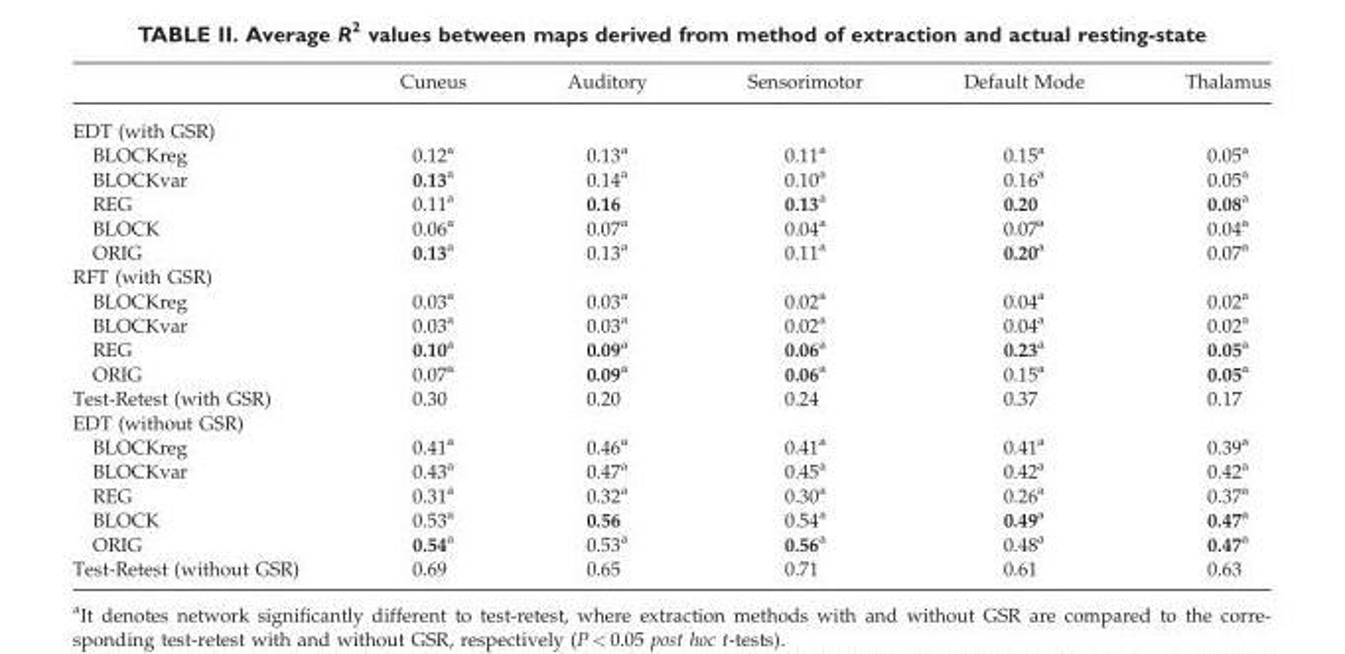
<table><thead><tr><td></td><td>Cuneus</td><td>Auditory</td><td>Sensorimotor</td><td>Default Mode</td><td>Thalamus</td></tr></thead><tbody><tr><td colspan="6">EDT (with GSR)</td></tr><tr><td>BLOCKreg</td><td>0.12<sup>a</sup></td><td>0.13<sup>a</sup></td><td>0.11<sup>a</sup></td><td>0.15<sup>a</sup></td><td>0.05<sup>a</sup></td></tr><tr><td>BLOCKvar</td><td>0.13a</td><td>0.14<sup>a</sup></td><td>0.10<sup>a</sup></td><td>0.16<sup>a</sup></td><td>0.05<sup>a</sup></td></tr><tr><td>REG</td><td>0.11<sup>a</sup></td><td>0.16</td><td>0.13a</td><td>0.20</td><td>0.08a</td></tr><tr><td>BLOCK</td><td>0.06<sup>a</sup></td><td>0.07<sup>a</sup></td><td>0.04<sup>a</sup></td><td>0.07<sup>a</sup></td><td>0.04<sup>a</sup></td></tr><tr><td>ORIG</td><td>0.13a</td><td>0.13<sup>a</sup></td><td>0.11<sup>a</sup></td><td>0.20a</td><td>0.07<sup>a</sup></td></tr><tr><td colspan="6">RFT (with GSR)</td></tr><tr><td>BLOCKreg</td><td>0.03<sup>a</sup></td><td>0.03<sup>a</sup></td><td>0.02<sup>a</sup></td><td>0.04<sup>a</sup></td><td>0.02<sup>a</sup></td></tr><tr><td>BLOCKvar</td><td>0.03<sup>a</sup></td><td>0.03<sup>a</sup></td><td>0.02<sup>a</sup></td><td>0.04<sup>a</sup></td><td>0.02<sup>a</sup></td></tr><tr><td>REG</td><td>0.10a</td><td>0.09a</td><td>0.06a</td><td>0.23a</td><td>0.05a</td></tr><tr><td>ORIG</td><td>0.07<sup>a</sup></td><td>0.09a</td><td>0.06a</td><td>0.15<sup>a</sup></td><td>0.05a</td></tr><tr><td>Test-Retest (with GSR)</td><td>0.30</td><td>0.20</td><td>0.24</td><td>0.37</td><td>0.17</td></tr><tr><td colspan="6">EDT (without GSR)</td></tr><tr><td>BLOCKreg</td><td>0.41<sup>a</sup></td><td>0.46<sup>a</sup></td><td>0.41<sup>a</sup></td><td>0.41<sup>a</sup></td><td>0.39<sup>a</sup></td></tr><tr><td>BLOCKvar</td><td>0.43<sup>a</sup></td><td>0.47<sup>a</sup></td><td>0.45<sup>a</sup></td><td>0.42<sup>a</sup></td><td>0.42<sup>a</sup></td></tr><tr><td>REG</td><td>0.31<sup>a</sup></td><td>0.32<sup>a</sup></td><td>0.30<sup>a</sup></td><td>0.26<sup>a</sup></td><td>0.37<sup>a</sup></td></tr><tr><td>BLOCK</td><td>0.53<sup>a</sup></td><td>0.56</td><td>0.54<sup>a</sup></td><td>0.49a</td><td>0.47a</td></tr><tr><td>ORIG</td><td>0.54a</td><td>0.53<sup>a</sup></td><td>0.56a</td><td>0.48<sup>a</sup></td><td>0.47a</td></tr><tr><td>Test-Retest (without GSR)</td><td>0.69</td><td>0.65</td><td>0.71</td><td>0.61</td><td>0.63</td></tr></tbody></table>